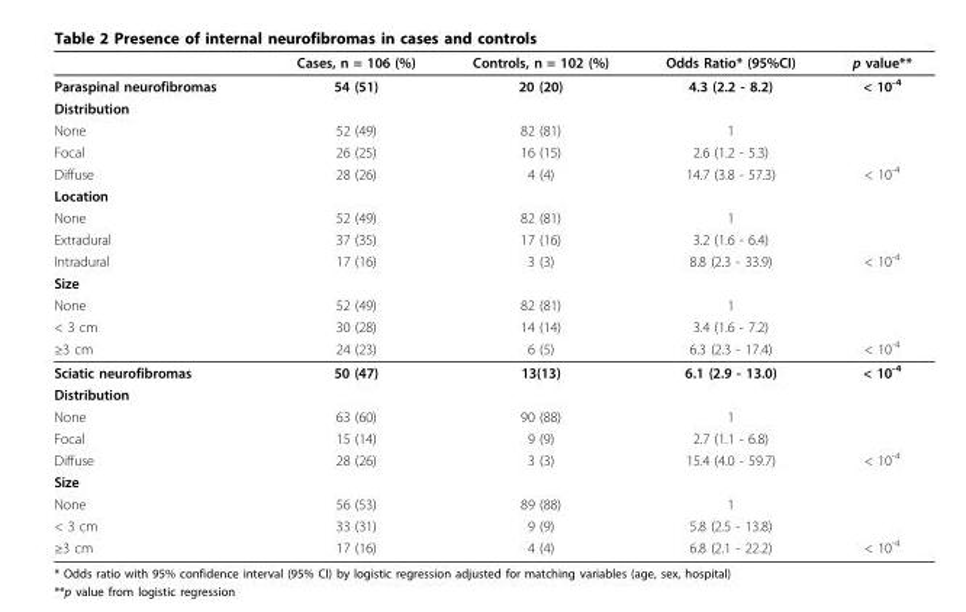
<table><thead><tr><td></td><td>Cases, n = 106 (%)</td><td>Controls, n = 102 (%)</td><td>Odds Ratio* (95%CI)</td><td>p value**</td></tr></thead><tbody><tr><td>Paraspinal neurofibromas</td><td>54 (51)</td><td>20 (20)</td><td>4.3 (2.2 - 8.2)</td><td>&lt; 10<sup>-4</sup></td></tr><tr><td colspan="5">Distribution</td></tr><tr><td>None</td><td>52 (49)</td><td>82 (81)</td><td>1</td><td></td></tr><tr><td>Focal</td><td>26 (25)</td><td>16 (15)</td><td>2.6 (1.2 - 5.3)</td><td></td></tr><tr><td>Diffuse</td><td>28 (26)</td><td>4 (4)</td><td>14.7 (3.8 - 57.3)</td><td>&lt; 10<sup>-4</sup></td></tr><tr><td colspan="5">Location</td></tr><tr><td>None</td><td>52 (49)</td><td>82 (81)</td><td>1</td><td></td></tr><tr><td>Extradural</td><td>37 (35)</td><td>17 (16)</td><td>3.2 (1.6 - 6.4)</td><td></td></tr><tr><td>Intradural</td><td>17 (16)</td><td>3 (3)</td><td>8.8 (2.3 - 33.9)</td><td>&lt; 10<sup>-4</sup></td></tr><tr><td colspan="5">Size</td></tr><tr><td>None</td><td>52 (49)</td><td>82 (81)</td><td>1</td><td></td></tr><tr><td>&lt; 3 cm</td><td>30 (28)</td><td>14 (14)</td><td>3.4 (1.6 - 7.2)</td><td></td></tr><tr><td>≥3 cm</td><td>24 (23)</td><td>6 (5)</td><td>6.3 (2.3 - 17.4)</td><td>&lt; 10<sup>-4</sup></td></tr><tr><td>Sciatic neurofibromas</td><td>50 (47)</td><td>13(13)</td><td>6.1 (2.9 - 13.0)</td><td>&lt; 10<sup>-4</sup></td></tr><tr><td colspan="5">Distribution</td></tr><tr><td>None</td><td>63 (60)</td><td>90 (88)</td><td>1</td><td></td></tr><tr><td>Focal</td><td>15 (14)</td><td>9 (9)</td><td>2.7 (1.1 - 6.8)</td><td></td></tr><tr><td>Diffuse</td><td>28 (26)</td><td>3 (3)</td><td>15.4 (4.0 - 59.7)</td><td>&lt; 10<sup>-4</sup></td></tr><tr><td colspan="5">Size</td></tr><tr><td>None</td><td>56 (53)</td><td>89 (88)</td><td>1</td><td></td></tr><tr><td>&lt; 3 cm</td><td>33 (31)</td><td>9 (9)</td><td>5.8 (2.5 - 13.8)</td><td></td></tr><tr><td>≥3 cm</td><td>17 (16)</td><td>4 (4)</td><td>6.8 (2.1 - 22.2)</td><td>&lt; 10<sup>-4</sup></td></tr></tbody></table>